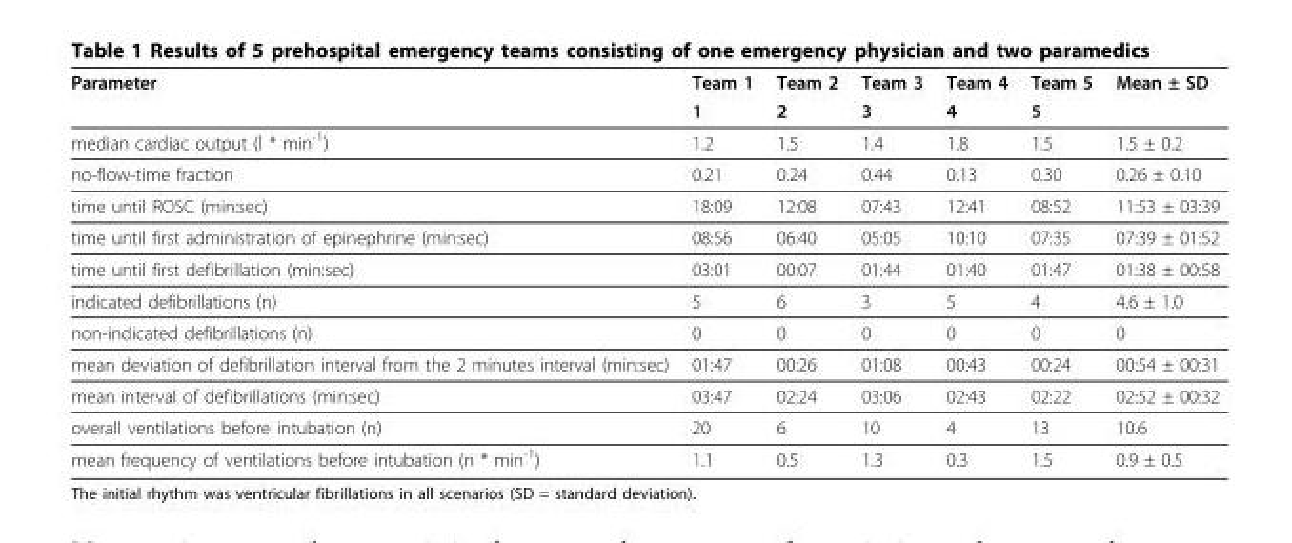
<table><thead><tr><td rowspan="2">Parameter</td><td rowspan="2">Team 1 1</td><td rowspan="2">Team 2 2</td><td rowspan="2">Team 3 3</td><td rowspan="2">Team 4 4</td><td rowspan="2">Team 5 5</td><td rowspan="2">Mean ± SD</td></tr><tr></tr></thead><tbody><tr><td>median cardiac output (l * min<sup>-1</sup>)</td><td>1.2</td><td>1.5</td><td>1.4</td><td>1.8</td><td>1.5</td><td>1.5 ± 0.2</td></tr><tr><td>no-flow-time fraction</td><td>0.21</td><td>0.24</td><td>0.44</td><td>0.13</td><td>0.30</td><td>0.26 ± 0.10</td></tr><tr><td>time until ROSC (min:sec)</td><td>18:09</td><td>12:08</td><td>07:43</td><td>12:41</td><td>08:52</td><td>11:53 ± 03:39</td></tr><tr><td>time until first administration of epinephrine (min:sec)</td><td>08:56</td><td>06:40</td><td>05:05</td><td>10:10</td><td>07:35</td><td>07:39 ± 01:52</td></tr><tr><td>time until first defibrillation (min:sec)</td><td>03:01</td><td>00:07</td><td>01:44</td><td>01:40</td><td>01:47</td><td>01:38 ± 00:58</td></tr><tr><td>indicated defibrillations (n)</td><td>5</td><td>6</td><td>3</td><td>5</td><td>4</td><td>4.6 ± 1.0</td></tr><tr><td>non-indicated defibrillations (n)</td><td>0</td><td>0</td><td>0</td><td>0</td><td>0</td><td>0</td></tr><tr><td>mean deviation of defibrillation interval from the 2 minutes interval (min:sec)</td><td>01:47</td><td>00:26</td><td>01:08</td><td>00:43</td><td>00:24</td><td>00:54 ± 00:31</td></tr><tr><td>mean interval of defibrillations (min:sec)</td><td>03:47</td><td>02:24</td><td>03:06</td><td>02:43</td><td>02:22</td><td>02:52 ± 00:32</td></tr><tr><td>overall ventilations before intubation (n)</td><td>20</td><td>6</td><td>10</td><td>4</td><td>13</td><td>10.6</td></tr><tr><td>mean frequency of ventilations before intubation (n * min-1)</td><td>1.1</td><td>0.5</td><td>1.3</td><td>0.3</td><td>1.5</td><td>0.9 ± 0.5</td></tr></tbody></table>